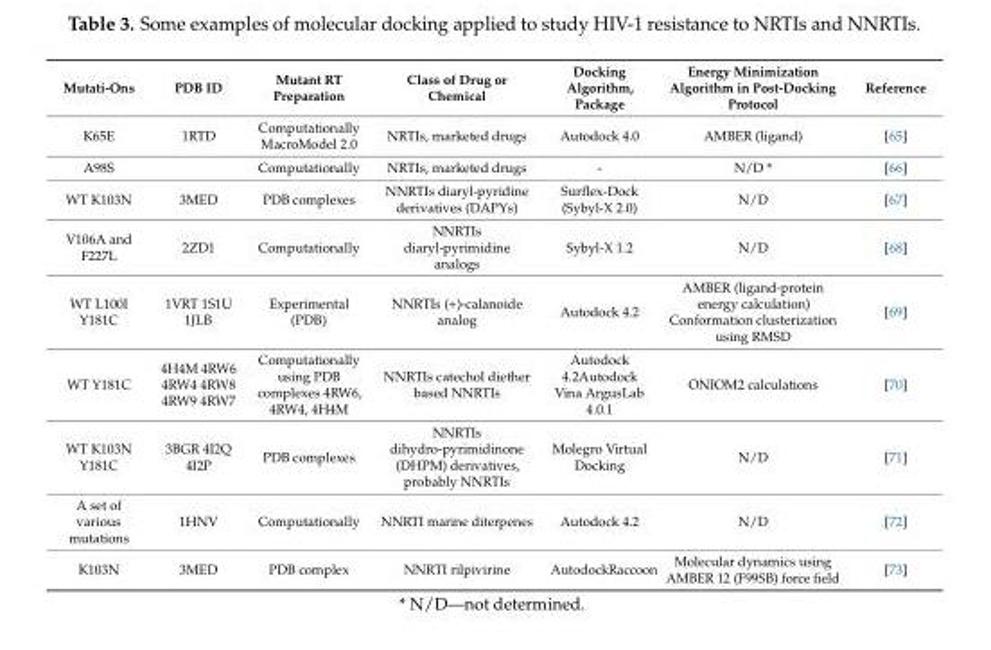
<table><thead><tr><td>Mutati-Ons</td><td>PDB ID</td><td>Mutant RT Preparation</td><td>Class of Drug or Chemical</td><td>Docking Algorithm, Package</td><td>Energy Minimization Algorithm in Post-Docking Protocol</td><td>Reference</td></tr></thead><tbody><tr><td>K65E</td><td>1RTD</td><td>Computationally MacroModel 2.0</td><td>NRTIs, marketed drugs</td><td>Autodock 4.0</td><td>AMBER (ligand)</td><td>[65]</td></tr><tr><td>A98S</td><td></td><td>Computationally</td><td>NRTIs, marketed drugs</td><td>-</td><td>N/D *</td><td>[66]</td></tr><tr><td>WT K103N</td><td>3MED</td><td>PDB complexes</td><td>NNRTIs diaryl-pyridine derivatives (DAPYs)</td><td>Surflex-Dock (Sybyl-X 2.0)</td><td>N/D</td><td>[67]</td></tr><tr><td>V106A and F227L</td><td>2ZD1</td><td>Computationally</td><td>NNRTIs diaryl-pyrimidine analogs</td><td>Sybyl-X 1.2</td><td>N/D</td><td>[68]</td></tr><tr><td>WT L100I Y181C</td><td>1VRT 1S1U 1JLB</td><td>Experimental (PDB)</td><td>NNRTIs (+)-calanoide analog</td><td>Autodock 4.2</td><td>AMBER (ligand-protein energy calculation) Conformation clusterization using RMSD</td><td>[69]</td></tr><tr><td>WT Y181C</td><td>4H4M 4RW6 4RW4 4RW8 4RW9 4RW7</td><td>Computationally using PDB complexes 4RW6, 4RW4, 4H4M</td><td>NNRTIs catechol diether based NNRTIs</td><td>Autodock 4.2Autodock Vina ArgusLab 4.0.1</td><td>ONIOM2 calculations</td><td>[70]</td></tr><tr><td>WT K103N Y181C</td><td>3BGR 4I2Q 4I2P</td><td>PDB complexes</td><td>NNRTIs dihydro-pyrimidinone (DHPM) derivatives, probably NNRTIs</td><td>Molegro Virtual Docking</td><td>N/D</td><td>[71]</td></tr><tr><td>A set of various mutations</td><td>1HNV</td><td>Computationally</td><td>NNRTI marine diterpenes</td><td>Autodock 4.2</td><td>N/D</td><td>[72]</td></tr><tr><td>K103N</td><td>3MED</td><td>PDB complex</td><td>NNRTI rilpivirine</td><td>AutodockRaccoon</td><td>Molecular dynamics using AMBER 12 (F99SB) force field</td><td>[73]</td></tr></tbody></table>